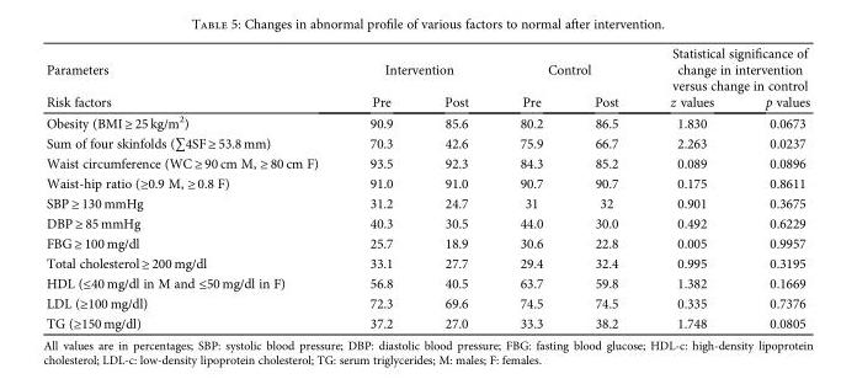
<table><thead><tr><td rowspan="2">Parameters Risk factors</td><td colspan="2">Intervention</td><td colspan="2">Control</td><td colspan="2">Statistical significance of change in intervention versus change in control</td></tr><tr><td>Pre</td><td>Post</td><td>Pre</td><td>Post</td><td>z values</td><td>p values</td></tr></thead><tbody><tr><td>Obesity (BMI ≥ 25 kg/m<sup>2</sup>)</td><td>90.9</td><td>85.6</td><td>80.2</td><td>86.5</td><td>1.830</td><td>0.0673</td></tr><tr><td>Sum of four skinfolds (∑4SF ≥ 53.8 mm)</td><td>70.3</td><td>42.6</td><td>75.9</td><td>66.7</td><td>2.263</td><td>0.0237</td></tr><tr><td>Waist circumference (WC ≥ 90 cm M, ≥ 80 cm F)</td><td>93.5</td><td>92.3</td><td>84.3</td><td>85.2</td><td>0.089</td><td>0.0896</td></tr><tr><td>Waist-hip ratio (≥0.9 M, ≥ 0.8 F)</td><td>91.0</td><td>91.0</td><td>90.7</td><td>90.7</td><td>0.175</td><td>0.8611</td></tr><tr><td>SBP ≥ 130 mmHg</td><td>31.2</td><td>24.7</td><td>31</td><td>32</td><td>0.901</td><td>0.3675</td></tr><tr><td>DBP ≥ 85 mmHg</td><td>40.3</td><td>30.5</td><td>44.0</td><td>30.0</td><td>0.492</td><td>0.6229</td></tr><tr><td>FBG ≥ 100 mg/dl</td><td>25.7</td><td>18.9</td><td>30.6</td><td>22.8</td><td>0.005</td><td>0.9957</td></tr><tr><td>Total cholesterol ≥ 200 mg/dl</td><td>33.1</td><td>27.7</td><td>29.4</td><td>32.4</td><td>0.995</td><td>0.3195</td></tr><tr><td>HDL (≤40 mg/dl in M and ≤50 mg/dl in F)</td><td>56.8</td><td>40.5</td><td>63.7</td><td>59.8</td><td>1.382</td><td>0.1669</td></tr><tr><td>LDL (≥100 mg/dl)</td><td>72.3</td><td>69.6</td><td>74.5</td><td>74.5</td><td>0.335</td><td>0.7376</td></tr><tr><td>TG (≥150 mg/dl)</td><td>37.2</td><td>27.0</td><td>33.3</td><td>38.2</td><td>1.748</td><td>0.0805</td></tr></tbody></table>